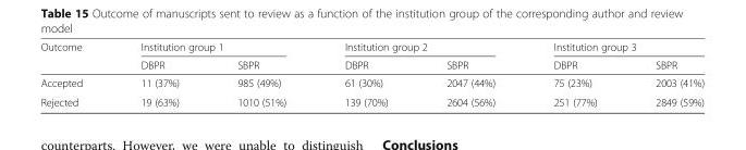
<table><thead><tr><td rowspan="2">Outcome</td><td colspan="2">Institution group 1</td><td colspan="2">Institution group 2</td><td colspan="2">Institution group 3</td></tr><tr><td>DBPR</td><td>SBPR</td><td>DBPR</td><td>SBPR</td><td>DBPR</td><td>SBPR</td></tr></thead><tbody><tr><td>Accepted</td><td>11 (37%)</td><td>985 (49%)</td><td>61 (30%)</td><td>2047 (44%)</td><td>75 (23%)</td><td>2003 (41%)</td></tr><tr><td>Rejected</td><td>19 (63%)</td><td>1010 (51%)</td><td>139 (70%)</td><td>2604 (56%)</td><td>251 (77%)</td><td>2849 (59%)</td></tr></tbody></table>